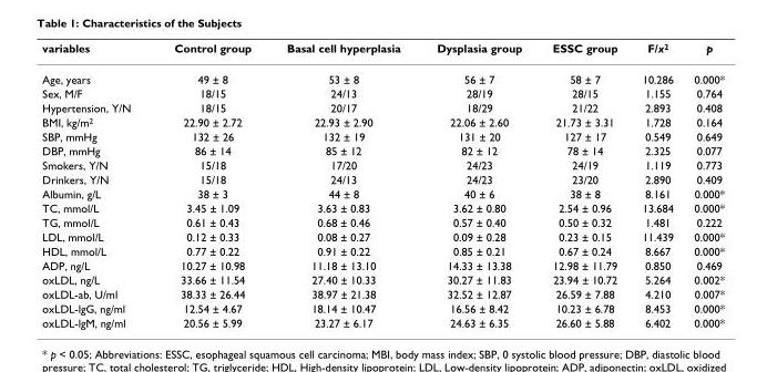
<table><thead><tr><td>variables</td><td>Control group</td><td>Basal cell hyperplasia</td><td>Dysplasia group</td><td>ESSC group</td><td>F/x<sup>2</sup></td><td>p</td></tr></thead><tbody><tr><td>Age, years</td><td>49 ± 8</td><td>53 ± 8</td><td>56 ± 7</td><td>58 ± 7</td><td>10.286</td><td>0.000*</td></tr><tr><td>Sex, M/F</td><td>18/15</td><td>24/13</td><td>28/19</td><td>28/15</td><td>1.155</td><td>0.764</td></tr><tr><td>Hypertension, Y/N</td><td>18/15</td><td>20/17</td><td>18/29</td><td>21/22</td><td>2.893</td><td>0.408</td></tr><tr><td>BMI, kg/m<sup>2</sup></td><td>22.90 ± 2.72</td><td>22.93 ± 2.90</td><td>22.06 ± 2.60</td><td>21.73 ± 3.31</td><td>1.728</td><td>0.164</td></tr><tr><td>SBP, mmHg</td><td>132 ± 26</td><td>132 ± 19</td><td>131 ± 20</td><td>127 ± 17</td><td>0.549</td><td>0.649</td></tr><tr><td>DBP, mmHg</td><td>86 ± 14</td><td>85 ± 12</td><td>82 ± 12</td><td>78 ± 14</td><td>2.325</td><td>0.077</td></tr><tr><td>Smokers, Y/N</td><td>15/18</td><td>17/20</td><td>24/23</td><td>24/19</td><td>1.119</td><td>0.773</td></tr><tr><td>Drinkers, Y/N</td><td>15/18</td><td>24/13</td><td>24/23</td><td>23/20</td><td>2.890</td><td>0.409</td></tr><tr><td>Albumin, g/L</td><td>38 ± 3</td><td>44 ± 8</td><td>40 ± 6</td><td>38 ± 8</td><td>8.161</td><td>0.000*</td></tr><tr><td>TC, mmol/L</td><td>3.45 ± 1.09</td><td>3.63 ± 0.83</td><td>3.62 ± 0.80</td><td>2.54 ± 0.96</td><td>13.684</td><td>0.000*</td></tr><tr><td>TG, mmol/L</td><td>0.61 ± 0.43</td><td>0.68 ± 0.46</td><td>0.57 ± 0.40</td><td>0.50 ± 0.32</td><td>1.481</td><td>0.222</td></tr><tr><td>LDL, mmol/L</td><td>0.12 ± 0.33</td><td>0.08 ± 0.27</td><td>0.09 ± 0.28</td><td>0.23 ± 0.15</td><td>11.439</td><td>0.000*</td></tr><tr><td>HDL, mmol/L</td><td>0.77 ± 0.22</td><td>0.91 ± 0.22</td><td>0.85 ± 0.21</td><td>0.67 ± 0.24</td><td>8.667</td><td>0.000*</td></tr><tr><td>ADP, ng/L</td><td>10.27 ± 10.98</td><td>11.18 ± 13.10</td><td>14.33 ± 13.38</td><td>12.98 ± 11.79</td><td>0.850</td><td>0.469</td></tr><tr><td>oxLDL, ng/L</td><td>33.66 ± 11.54</td><td>27.40 ± 10.33</td><td>30.27 ± 11.83</td><td>23.94 ± 10.72</td><td>5.264</td><td>0.002*</td></tr><tr><td>oxLDL-ab, U/ml</td><td>38.33 ± 26.44</td><td>38.97 ± 21.38</td><td>32.52 ± 12.87</td><td>26.59 ± 7.88</td><td>4.210</td><td>0.007*</td></tr><tr><td>oxLDL-lgG, ng/ml</td><td>12.54 ± 4.67</td><td>18.14 ± 10.47</td><td>16.56 ± 8.42</td><td>10.23 ± 6.78</td><td>8.453</td><td>0.000*</td></tr><tr><td>oxLDL-lgM, ng/ml</td><td>20.56 ± 5.99</td><td>23.27 ± 6.17</td><td>24.63 ± 6.35</td><td>26.60 ± 5.88</td><td>6.402</td><td>0.000*</td></tr></tbody></table>